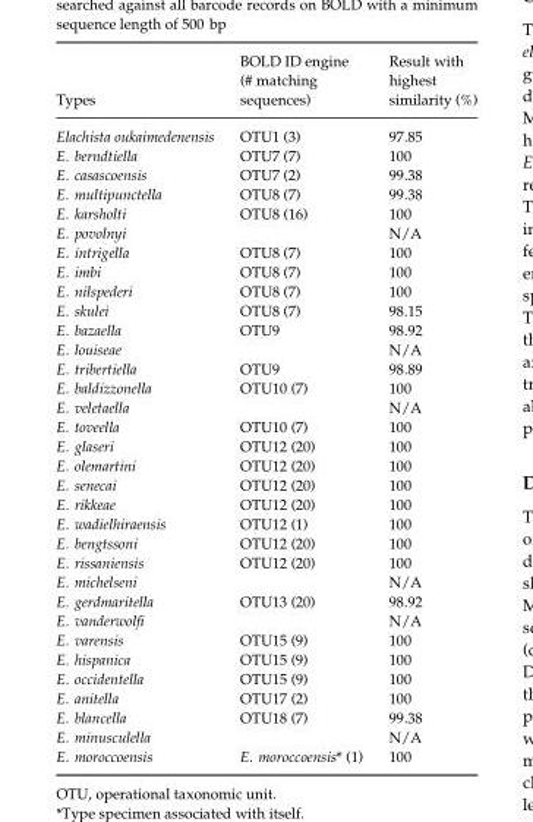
<table><thead><tr><td>Types</td><td>BOLD ID engine (# matching sequences)</td><td>Result with highest similarity (%)</td></tr></thead><tbody><tr><td>Elachista oukaimedenensis</td><td>OTU1 (3)</td><td>97.85</td></tr><tr><td>E. berndtiella</td><td>OTU7 (7)</td><td>100</td></tr><tr><td>E. casascoensis</td><td>OTU7 (2)</td><td>99.38</td></tr><tr><td>E. multipunctella</td><td>OTU8 (7)</td><td>99.38</td></tr><tr><td>E. karsholti</td><td>OTU8 (16)</td><td>100</td></tr><tr><td>E. povolnyi</td><td></td><td>N/A</td></tr><tr><td>E. intrigella</td><td>OTU8 (7)</td><td>100</td></tr><tr><td>E. imbi</td><td>OTU8 (7)</td><td>100</td></tr><tr><td>E. nilspederi</td><td>OTU8 (7)</td><td>100</td></tr><tr><td>E. skulei</td><td>OTU8 (7)</td><td>98.15</td></tr><tr><td>E. bazaella</td><td>OTU9</td><td>98.92</td></tr><tr><td>E. louiseae</td><td></td><td>N/A</td></tr><tr><td>E. tribertiella</td><td>OTU9</td><td>98.89</td></tr><tr><td>E. baldizzonella</td><td>OTU10 (7)</td><td>100</td></tr><tr><td>E. veletaella</td><td></td><td>N/A</td></tr><tr><td>E. toveella</td><td>OTU10 (7)</td><td>100</td></tr><tr><td>E. glaseri</td><td>OTU12 (20)</td><td>100</td></tr><tr><td>E. olemartini</td><td>OTU12 (20)</td><td>100</td></tr><tr><td>E. senecai</td><td>OTU12 (20)</td><td>100</td></tr><tr><td>E. rikkeae</td><td>OTU12 (20)</td><td>100</td></tr><tr><td>E. wadielhiraensis</td><td>OTU12 (1)</td><td>100</td></tr><tr><td>E. bengtssoni</td><td>OTU12 (20)</td><td>100</td></tr><tr><td>E. rissaniensis</td><td>OTU12 (20)</td><td>100</td></tr><tr><td>E. michelseni</td><td></td><td>N/A</td></tr><tr><td>E. gerdmaritella</td><td>OTU13 (20)</td><td>98.92</td></tr><tr><td>E. vanderwolfi</td><td></td><td>N/A</td></tr><tr><td>E. varensis</td><td>OTU15 (9)</td><td>100</td></tr><tr><td>E. hispanica</td><td>OTU15 (9)</td><td>100</td></tr><tr><td>E. occidentella</td><td>OTU15 (9)</td><td>100</td></tr><tr><td>E. anitella</td><td>OTU17 (2)</td><td>100</td></tr><tr><td>E. blancella</td><td>OTU18 (7)</td><td>99.38</td></tr><tr><td>E. minusculella</td><td></td><td>N/A</td></tr><tr><td>E. moroccoensis</td><td>E. moroccoensis* (1)</td><td>100</td></tr></tbody></table>